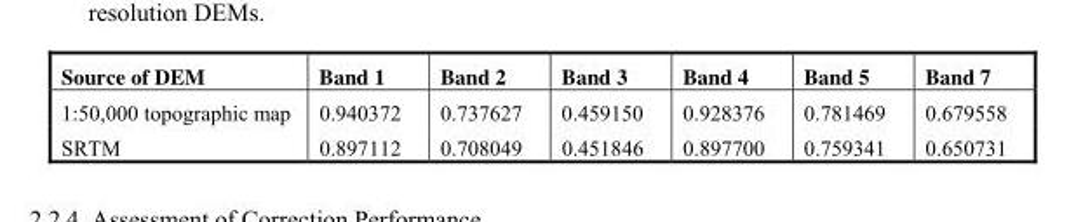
<table><thead><tr><td>Source of DEM</td><td>Band 1</td><td>Band 2</td><td>Band 3</td><td>Band 4</td><td>Band 5</td><td>Band 7</td></tr></thead><tbody><tr><td>1:50,000 topographic map</td><td>0.940372</td><td>0.737627</td><td>0.459150</td><td>0.928376</td><td>0.781469</td><td>0.679558</td></tr><tr><td>SRTM</td><td>0.897112</td><td>0.708049</td><td>0.451846</td><td>0.897700</td><td>0.759341</td><td>0.650731</td></tr></tbody></table>